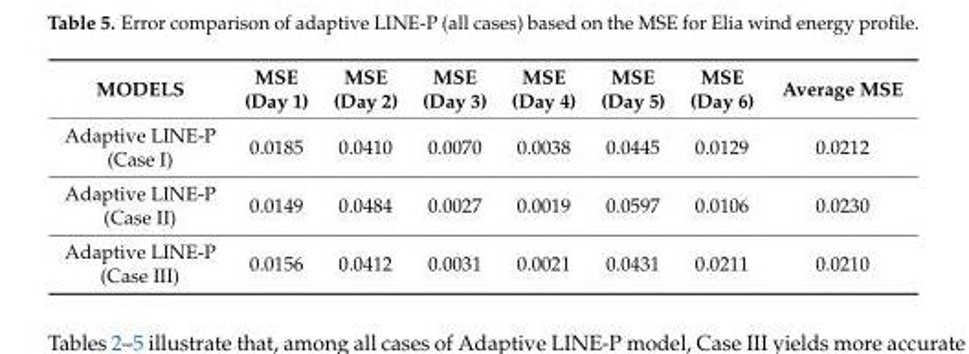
<table><thead><tr><td>MODELS</td><td>MSE (Day 1)</td><td>MSE (Day 2)</td><td>MSE (Day 3)</td><td>MSE (Day 4)</td><td>MSE (Day 5)</td><td>MSE (Day 6)</td><td>Average MSE</td></tr></thead><tbody><tr><td>Adaptive LINE-P (Case I)</td><td>0.0185</td><td>0.0410</td><td>0.0070</td><td>0.0038</td><td>0.0445</td><td>0.0129</td><td>0.0212</td></tr><tr><td>Adaptive LINE-P (Case II)</td><td>0.0149</td><td>0.0484</td><td>0.0027</td><td>0.0019</td><td>0.0597</td><td>0.0106</td><td>0.0230</td></tr><tr><td>Adaptive LINE-P (Case III)</td><td>0.0156</td><td>0.0412</td><td>0.0031</td><td>0.0021</td><td>0.0431</td><td>0.0211</td><td>0.0210</td></tr></tbody></table>